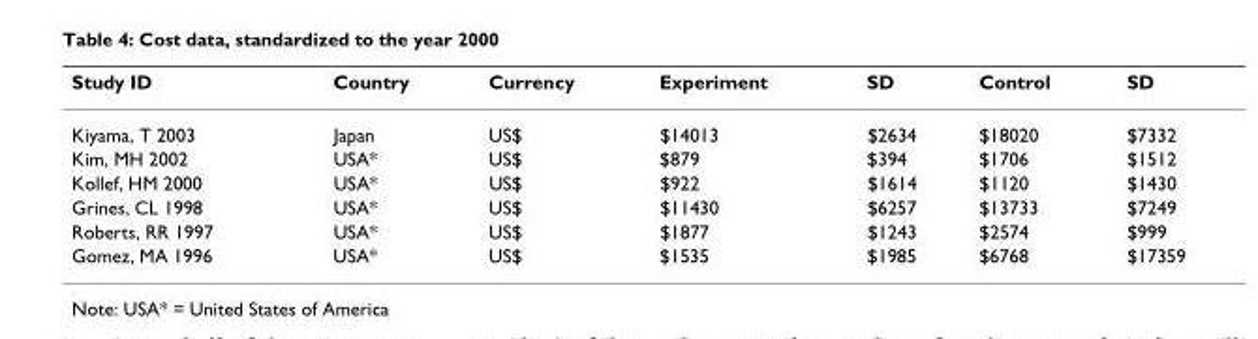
<table><thead><tr><td>Study ID</td><td>Country</td><td>Currency</td><td>Experiment</td><td>SD</td><td>Control</td><td>SD</td></tr></thead><tbody><tr><td>Kiyama, T 2003</td><td>Japan</td><td>US$</td><td>$14013</td><td>$2634</td><td>$18020</td><td>$7332</td></tr><tr><td>Kim, MH 2002</td><td>USA*</td><td>US$</td><td>$879</td><td>$394</td><td>$1706</td><td>$1512</td></tr><tr><td>Kollef, HM 2000</td><td>USA*</td><td>US$</td><td>$922</td><td>$1614</td><td>$1120</td><td>$1430</td></tr><tr><td>Grines, CL 1998</td><td>USA*</td><td>US$</td><td>$11430</td><td>$6257</td><td>$13733</td><td>$7249</td></tr><tr><td>Roberts, RR 1997</td><td>USA*</td><td>US$</td><td>$1877</td><td>$1243</td><td>$2574</td><td>$999</td></tr><tr><td>Gomez, MA 1996</td><td>USA*</td><td>US$</td><td>$1535</td><td>$1985</td><td>$6768</td><td>$17359</td></tr></tbody></table>